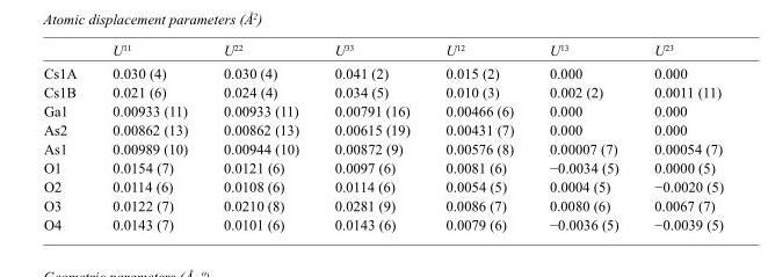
<table><thead><tr><td></td><td>U<sup>11</sup></td><td>U<sup>22</sup></td><td>U<sup>33</sup></td><td>U<sup>12</sup></td><td>U<sup>13</sup></td><td>U<sup>23</sup></td></tr></thead><tbody><tr><td>Cs1A</td><td>0.030 (4)</td><td>0.030 (4)</td><td>0.041 (2)</td><td>0.015 (2)</td><td>0.000</td><td>0.000</td></tr><tr><td>Cs1B</td><td>0.021 (6)</td><td>0.024 (4)</td><td>0.034 (5)</td><td>0.010 (3)</td><td>0.002 (2)</td><td>0.0011 (11)</td></tr><tr><td>Ga1</td><td>0.00933 (11)</td><td>0.00933 (11)</td><td>0.00791 (16)</td><td>0.00466 (6)</td><td>0.000</td><td>0.000</td></tr><tr><td>As2</td><td>0.00862 (13)</td><td>0.00862 (13)</td><td>0.00615 (19)</td><td>0.00431 (7)</td><td>0.000</td><td>0.000</td></tr><tr><td>As1</td><td>0.00989 (10)</td><td>0.00944 (10)</td><td>0.00872 (9)</td><td>0.00576 (8)</td><td>0.00007 (7)</td><td>0.00054 (7)</td></tr><tr><td>O1</td><td>0.0154 (7)</td><td>0.0121 (6)</td><td>0.0097 (6)</td><td>0.0081 (6)</td><td>−0.0034 (5)</td><td>0.0000 (5)</td></tr><tr><td>O2</td><td>0.0114 (6)</td><td>0.0108 (6)</td><td>0.0114 (6)</td><td>0.0054 (5)</td><td>0.0004 (5)</td><td>−0.0020 (5)</td></tr><tr><td>O3</td><td>0.0122 (7)</td><td>0.0210 (8)</td><td>0.0281 (9)</td><td>0.0086 (7)</td><td>0.0080 (6)</td><td>0.0067 (7)</td></tr><tr><td>O4</td><td>0.0143 (7)</td><td>0.0101 (6)</td><td>0.0143 (6)</td><td>0.0079 (6)</td><td>−0.0036 (5)</td><td>−0.0039 (5)</td></tr></tbody></table>